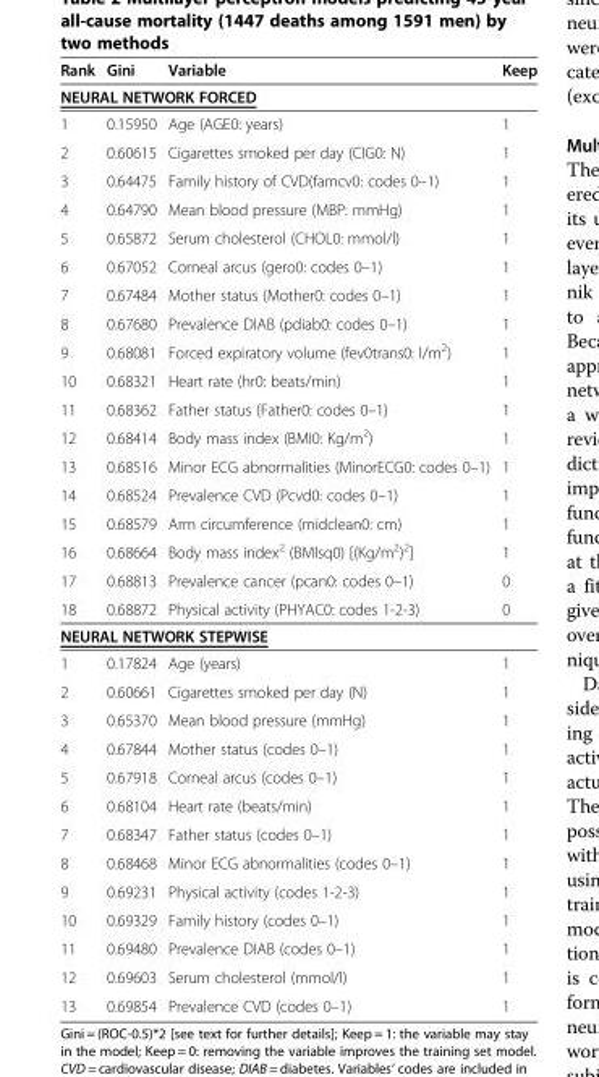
<table><tbody><tr><td>Rank</td><td>Gini</td><td>Variable</td><td>Keep</td></tr><tr><td colspan="4">NEURAL NETWORK FORCED</td></tr><tr><td>1</td><td>0.15950</td><td>Age (AGE0: years)</td><td>1</td></tr><tr><td>2</td><td>0.60615</td><td>Cigarettes smoked per day (CIG0: N)</td><td>1</td></tr><tr><td>3</td><td>0.64475</td><td>Family history of CVD(famcv0: codes 0–1)</td><td>1</td></tr><tr><td>4</td><td>0.64790</td><td>Mean blood pressure (MBP: mmHg)</td><td>1</td></tr><tr><td>5</td><td>0.65872</td><td>Serum cholesterol (CHOL0: mmol/l)</td><td>1</td></tr><tr><td>6</td><td>0.67052</td><td>Corneal arcus (gero0: codes 0–1)</td><td>1</td></tr><tr><td>7</td><td>0.67484</td><td>Mother status (Mother0: codes 0–1)</td><td>1</td></tr><tr><td>8</td><td>0.67680</td><td>Prevalence DIAB (pdiab0: codes 0–1)</td><td>1</td></tr><tr><td>9</td><td>0.68081</td><td>Forced expiratory volume (fev0trans0: l/m<sup>2</sup>)</td><td>1</td></tr><tr><td>10</td><td>0.68321</td><td>Heart rate (hr0: beats/min)</td><td>1</td></tr><tr><td>11</td><td>0.68362</td><td>Father status (Father0: codes 0–1)</td><td>1</td></tr><tr><td>12</td><td>0.68414</td><td>Body mass index (BMI0: Kg/m<sup>2</sup>)</td><td>1</td></tr><tr><td>13</td><td>0.68516</td><td>Minor ECG abnormalities (MinorECG0: codes 0–1)</td><td>1</td></tr><tr><td>14</td><td>0.68524</td><td>Prevalence CVD (Pcvd0: codes 0–1)</td><td>1</td></tr><tr><td>15</td><td>0.68579</td><td>Arm circumference (midclean0: cm)</td><td>1</td></tr><tr><td>16</td><td>0.68664</td><td>Body mass index<sup>2</sup> (BMIsq0) [(Kg/m<sup>2</sup>)<sup>2</sup>]</td><td>1</td></tr><tr><td>17</td><td>0.68813</td><td>Prevalence cancer (pcan0: codes 0–1)</td><td>0</td></tr><tr><td>18</td><td>0.68872</td><td>Physical activity (PHYAC0: codes 1-2-3)</td><td>0</td></tr><tr><td colspan="4">NEURAL NETWORK STEPWISE</td></tr><tr><td>1</td><td>0.17824</td><td>Age (years)</td><td>1</td></tr><tr><td>2</td><td>0.60661</td><td>Cigarettes smoked per day (N)</td><td>1</td></tr><tr><td>3</td><td>0.65370</td><td>Mean blood pressure (mmHg)</td><td>1</td></tr><tr><td>4</td><td>0.67844</td><td>Mother status (codes 0–1)</td><td>1</td></tr><tr><td>5</td><td>0.67918</td><td>Corneal arcus (codes 0–1)</td><td>1</td></tr><tr><td>6</td><td>0.68104</td><td>Heart rate (beats/min)</td><td>1</td></tr><tr><td>7</td><td>0.68347</td><td>Father status (codes 0–1)</td><td>1</td></tr><tr><td>8</td><td>0.68468</td><td>Minor ECG abnormalities (codes 0–1)</td><td>1</td></tr><tr><td>9</td><td>0.69231</td><td>Physical activity (codes 1-2-3)</td><td>1</td></tr><tr><td>10</td><td>0.69329</td><td>Family history (codes 0–1)</td><td>1</td></tr><tr><td>11</td><td>0.69480</td><td>Prevalence DIAB (codes 0–1)</td><td>1</td></tr><tr><td>12</td><td>0.69603</td><td>Serum cholesterol (mmol/l)</td><td>1</td></tr><tr><td>13</td><td>0.69854</td><td>Prevalence CVD (codes 0–1)</td><td>1</td></tr></tbody></table>